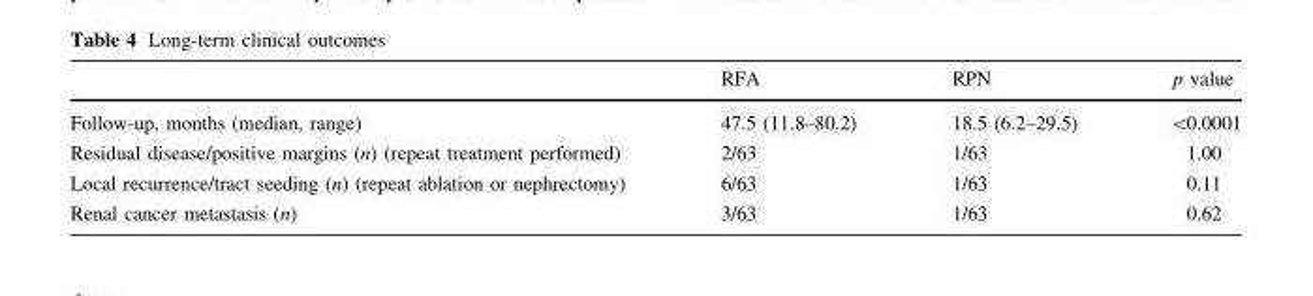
<table><thead><tr><td></td><td>RFA</td><td>RPN</td><td>p value</td></tr></thead><tbody><tr><td>Follow-up, months (median, range)</td><td>47.5 (11.8–80.2)</td><td>18.5 (6.2–29.5)</td><td>&lt;0.0001</td></tr><tr><td>Residual disease/positive margins (n) (repeat treatment performed)</td><td>2/63</td><td>1/63</td><td>1.00</td></tr><tr><td>Local recurrence/tract seeding (n) (repeat ablation or nephrectomy)</td><td>6/63</td><td>1/63</td><td>0.11</td></tr><tr><td>Renal cancer metastasis (n)</td><td>3/63</td><td>1/63</td><td>0.62</td></tr></tbody></table>